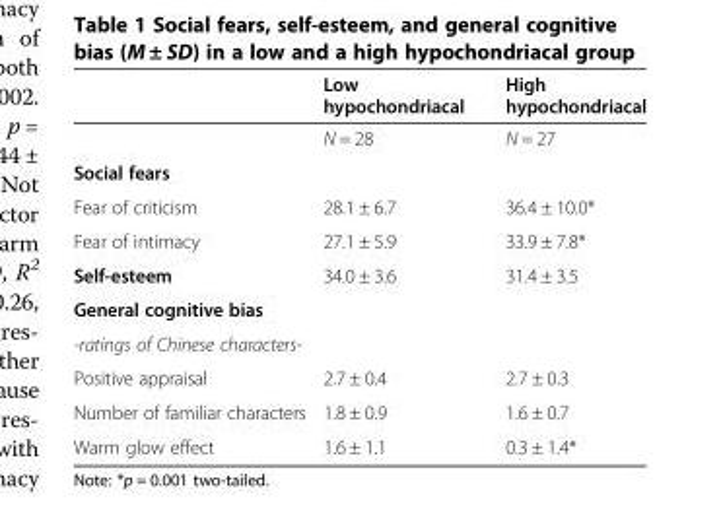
<table><thead><tr><td></td><td>Low hypochondriacal</td><td>High hypochondriacal</td></tr></thead><tbody><tr><td></td><td>N = 28</td><td>N = 27</td></tr><tr><td colspan="3">Social fears</td></tr><tr><td>Fear of criticism</td><td>28.1 ± 6.7</td><td>36.4 ± 10.0*</td></tr><tr><td>Fear of intimacy</td><td>27.1 ± 5.9</td><td>33.9 ± 7.8*</td></tr><tr><td>Self-esteem</td><td>34.0 ± 3.6</td><td>31.4 ± 3.5</td></tr><tr><td colspan="3">General cognitive bias</td></tr><tr><td colspan="3">-ratings of Chinese characters-</td></tr><tr><td>Positive appraisal</td><td>2.7 ± 0.4</td><td>2.7 ± 0.3</td></tr><tr><td>Number of familiar characters</td><td>1.8 ± 0.9</td><td>1.6 ± 0.7</td></tr><tr><td>Warm glow effect</td><td>1.6 ± 1.1</td><td>0.3 ± 1.4*</td></tr></tbody></table>